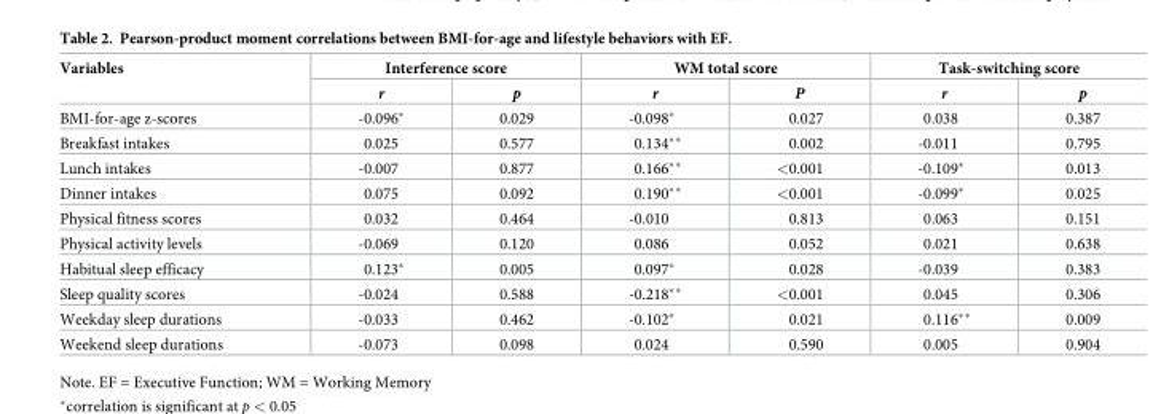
<table><thead><tr><td rowspan="2">Variables</td><td colspan="2">Interference score</td><td colspan="2">WM total score</td><td colspan="2">Task-switching score</td></tr><tr><td>r</td><td>p</td><td>r</td><td>P</td><td>r</td><td>p</td></tr></thead><tbody><tr><td>BMI-for-age z-scores</td><td>-0.096*</td><td>0.029</td><td>-0.098*</td><td>0.027</td><td>0.038</td><td>0.387</td></tr><tr><td>Breakfast intakes</td><td>0.025</td><td>0.577</td><td>0.134**</td><td>0.002</td><td>-0.011</td><td>0.795</td></tr><tr><td>Lunch intakes</td><td>-0.007</td><td>0.877</td><td>0.166**</td><td>&lt;0.001</td><td>-0.109*</td><td>0.013</td></tr><tr><td>Dinner intakes</td><td>0.075</td><td>0.092</td><td>0.190**</td><td>&lt;0.001</td><td>-0.099*</td><td>0.025</td></tr><tr><td>Physical fitness scores</td><td>0.032</td><td>0.464</td><td>-0.010</td><td>0.813</td><td>0.063</td><td>0.151</td></tr><tr><td>Physical activity levels</td><td>-0.069</td><td>0.120</td><td>0.086</td><td>0.052</td><td>0.021</td><td>0.638</td></tr><tr><td>Habitual sleep efficacy</td><td>0.123*</td><td>0.005</td><td>0.097*</td><td>0.028</td><td>-0.039</td><td>0.383</td></tr><tr><td>Sleep quality scores</td><td>-0.024</td><td>0.588</td><td>-0.218**</td><td>&lt;0.001</td><td>0.045</td><td>0.306</td></tr><tr><td>Weekday sleep durations</td><td>-0.033</td><td>0.462</td><td>-0.102*</td><td>0.021</td><td>0.116**</td><td>0.009</td></tr><tr><td>Weekend sleep durations</td><td>-0.073</td><td>0.098</td><td>0.024</td><td>0.590</td><td>0.005</td><td>0.904</td></tr></tbody></table>